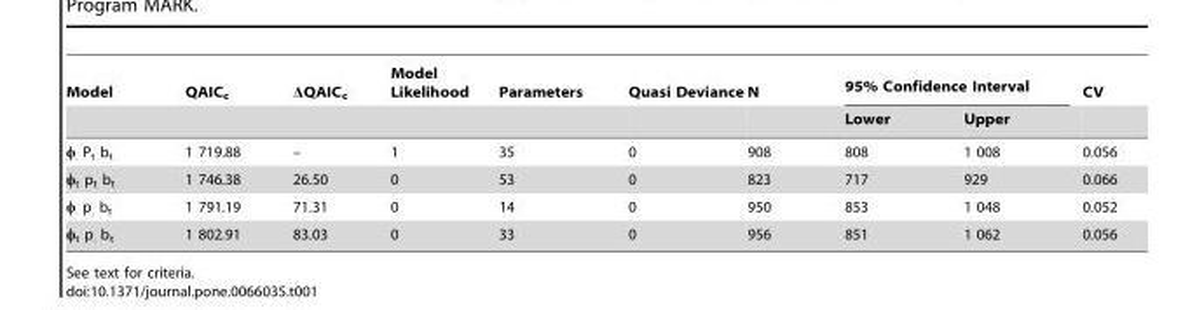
<table><thead><tr><td rowspan="2">Model</td><td rowspan="2">QAIC<sub>c</sub></td><td rowspan="2">ΔQAIC<sub>c</sub></td><td rowspan="2">Model Likelihood</td><td rowspan="2">Parameters</td><td rowspan="2">Quasi Deviance</td><td rowspan="2">N</td><td colspan="2">95% Confidence Interval</td><td rowspan="2">CV</td></tr><tr><td>Lower</td><td>Upper</td></tr></thead><tbody><tr><td>φ<sub>.</sub> P<sub>t</sub> b<sub>t</sub></td><td>1 719.88</td><td>–</td><td>1</td><td>35</td><td>0</td><td>908</td><td>808</td><td>1 008</td><td>0.056</td></tr><tr><td>φ<sub>t</sub> p<sub>t</sub> b<sub>t</sub></td><td>1 746.38</td><td>26.50</td><td>0</td><td>53</td><td>0</td><td>823</td><td>717</td><td>929</td><td>0.066</td></tr><tr><td>φ<sub>.</sub> p<sub>.</sub> b<sub>t</sub></td><td>1 791.19</td><td>71.31</td><td>0</td><td>14</td><td>0</td><td>950</td><td>853</td><td>1 048</td><td>0.052</td></tr><tr><td>φ<sub>t</sub> p<sub>.</sub> b<sub>t</sub></td><td>1 802.91</td><td>83.03</td><td>0</td><td>33</td><td>0</td><td>956</td><td>851</td><td>1 062</td><td>0.056</td></tr></tbody></table>